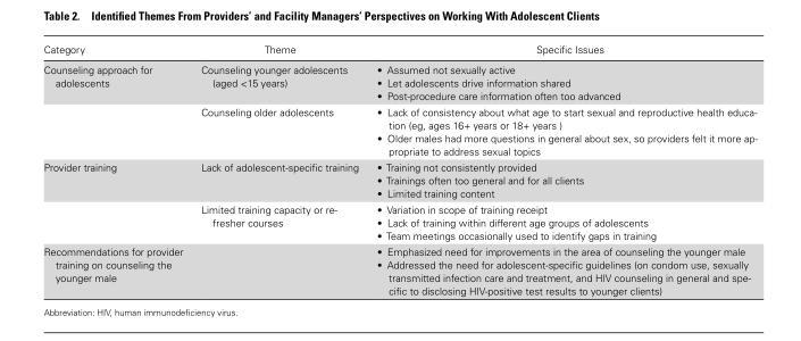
<table><thead><tr><td>Category</td><td>Theme</td><td>Specific Issues</td></tr></thead><tbody><tr><td rowspan="2">Counseling approach for adolescents</td><td>Counseling younger adolescents (aged &lt;15 years)</td><td>• Assumed not sexually active • Let adolescents drive information shared • Post-procedure care information often too advanced</td></tr><tr><td>Counseling older adolescents</td><td>• Lack of consistency about what age to start sexual and reproductive health educa- tion (eg, ages 16+ years or 18+ years ) • Older males had more questions in general about sex, so providers felt it more ap- propriate to address sexual topics</td></tr><tr><td rowspan="2">Provider training</td><td>Lack of adolescent-specific training</td><td>• Training not consistently provided • Trainings often too general and for all clients • Limited training content</td></tr><tr><td>Limited training capacity or re- fresher courses</td><td>• Variation in scope of training receipt • Lack of training within different age groups of adolescents • Team meetings occasionally used to identify gaps in training</td></tr><tr><td>Recommendations for provider training on counseling the younger male</td><td></td><td>• Emphasized need for improvements in the area of counseling the younger male • Addressed the need for adolescent-specific guidelines (on condom use, sexually transmitted infection care and treatment, and HIV counseling in general and spe- cific to disclosing HIV-positive test results to younger clients)</td></tr></tbody></table>